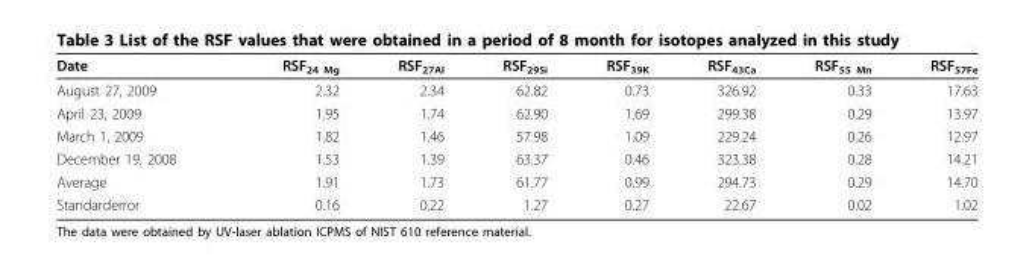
<table><thead><tr><td>Date</td><td>RSF<sub>24 Mg</sub></td><td>RSF<sub>27Al</sub></td><td>RSF<sub>29Si</sub></td><td>RSF<sub>39K</sub></td><td>RSF<sub>43Ca</sub></td><td>RSF<sub>55 Mn</sub></td><td>RSF<sub>57Fe</sub></td></tr></thead><tbody><tr><td>August 27, 2009</td><td>2.32</td><td>2.34</td><td>62.82</td><td>0.73</td><td>326.92</td><td>0.33</td><td>17.63</td></tr><tr><td>April 23, 2009</td><td>1.95</td><td>1.74</td><td>62.90</td><td>1.69</td><td>299.38</td><td>0.29</td><td>13.97</td></tr><tr><td>March 1, 2009</td><td>1.82</td><td>1.46</td><td>57.98</td><td>1.09</td><td>229.24</td><td>0.26</td><td>12.97</td></tr><tr><td>December 19, 2008</td><td>1.53</td><td>1.39</td><td>63.37</td><td>0.46</td><td>323.38</td><td>0.28</td><td>14.21</td></tr><tr><td>Average</td><td>1.91</td><td>1.73</td><td>61.77</td><td>0.99</td><td>294.73</td><td>0.29</td><td>14.70</td></tr><tr><td>Standarderror</td><td>0.16</td><td>0.22</td><td>1.27</td><td>0.27</td><td>22.67</td><td>0.02</td><td>1.02</td></tr></tbody></table>